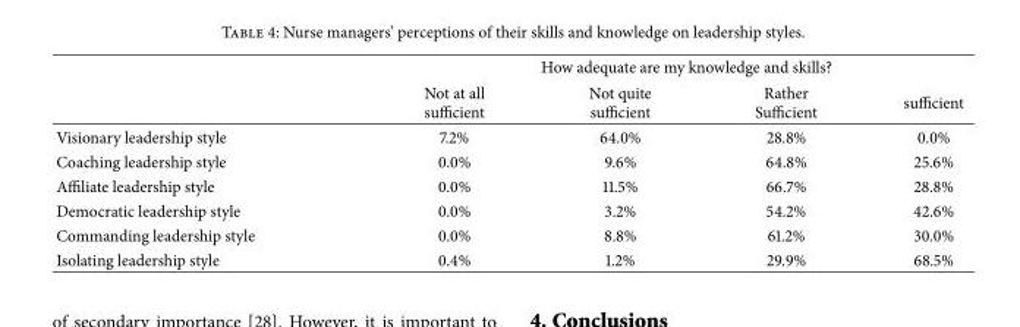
<table><thead><tr><td rowspan="2"></td><td colspan="4">How adequate are my knowledge and skills?</td></tr><tr><td>Not at all sufficient</td><td>Not quite sufficient</td><td>Rather Sufficient</td><td>sufficient</td></tr></thead><tbody><tr><td>Visionary leadership style</td><td>7.2%</td><td>64.0%</td><td>28.8%</td><td>0.0%</td></tr><tr><td>Coaching leadership style</td><td>0.0%</td><td>9.6%</td><td>64.8%</td><td>25.6%</td></tr><tr><td>Affiliate leadership style</td><td>0.0%</td><td>11.5%</td><td>66.7%</td><td>28.8%</td></tr><tr><td>Democratic leadership style</td><td>0.0%</td><td>3.2%</td><td>54.2%</td><td>42.6%</td></tr><tr><td>Commanding leadership style</td><td>0.0%</td><td>8.8%</td><td>61.2%</td><td>30.0%</td></tr><tr><td>Isolating leadership style</td><td>0.4%</td><td>1.2%</td><td>29.9%</td><td>68.5%</td></tr></tbody></table>